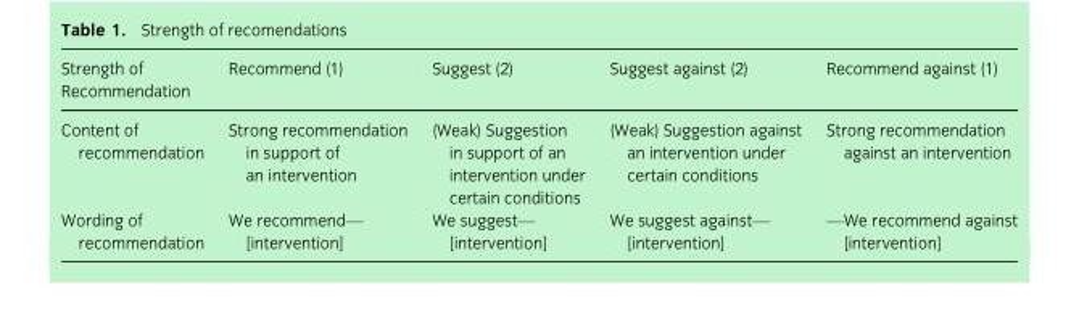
<table><thead><tr><td>Strength of Recommendation</td><td>Recommend (1)</td><td>Suggest (2)</td><td>Suggest against (2)</td><td>Recommend against (1)</td></tr></thead><tbody><tr><td>Content of recommendation</td><td>Strong recommendation in support of an intervention</td><td>(Weak) Suggestion in support of an intervention under certain conditions</td><td>(Weak) Suggestion against an intervention under certain conditions</td><td>Strong recommendation against an intervention</td></tr><tr><td>Wording of recommendation</td><td>We recommend— [intervention]</td><td>We suggest— [intervention]</td><td>We suggest against— [intervention]</td><td>—We recommend against [intervention]</td></tr></tbody></table>